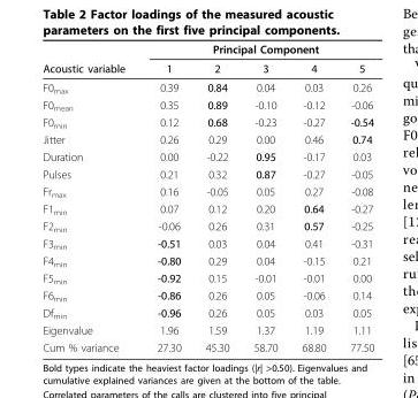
<table><thead><tr><td rowspan="2">Acoustic variable</td><td colspan="5">Principal Component</td></tr><tr><td>1</td><td>2</td><td>3</td><td>4</td><td>5</td></tr></thead><tbody><tr><td>F0<sub>max</sub></td><td>0.39</td><td>0.84</td><td>0.04</td><td>0.03</td><td>0.26</td></tr><tr><td>F0<sub>mean</sub></td><td>0.35</td><td>0.89</td><td>-0.10</td><td>-0.12</td><td>-0.06</td></tr><tr><td>F0<sub>min</sub></td><td>0.12</td><td>0.68</td><td>-0.23</td><td>-0.27</td><td>-0.54</td></tr><tr><td>Jitter</td><td>0.26</td><td>0.29</td><td>0.00</td><td>0.46</td><td>0.74</td></tr><tr><td>Duration</td><td>0.00</td><td>-0.22</td><td>0.95</td><td>-0.17</td><td>0.03</td></tr><tr><td>Pulses</td><td>0.21</td><td>0.32</td><td>0.87</td><td>-0.27</td><td>-0.05</td></tr><tr><td>Fr<sub>max</sub></td><td>0.16</td><td>-0.05</td><td>0.05</td><td>0.27</td><td>-0.08</td></tr><tr><td>F1<sub>min</sub></td><td>0.07</td><td>0.12</td><td>0.20</td><td>0.64</td><td>-0.27</td></tr><tr><td>F2<sub>min</sub></td><td>-0.06</td><td>0.26</td><td>0.31</td><td>0.57</td><td>-0.25</td></tr><tr><td>F3<sub>min</sub></td><td>-0.51</td><td>0.03</td><td>0.04</td><td>0.41</td><td>-0.31</td></tr><tr><td>F4<sub>min</sub></td><td>-0.80</td><td>0.29</td><td>0.04</td><td>-0.15</td><td>0.21</td></tr><tr><td>F5<sub>min</sub></td><td>-0.92</td><td>0.15</td><td>-0.01</td><td>-0.01</td><td>0.00</td></tr><tr><td>F6<sub>min</sub></td><td>-0.86</td><td>0.26</td><td>0.05</td><td>-0.06</td><td>0.14</td></tr><tr><td>Df<sub>min</sub></td><td>-0.96</td><td>0.26</td><td>0.05</td><td>0.03</td><td>0.05</td></tr><tr><td>Eigenvalue</td><td>1.96</td><td>1.59</td><td>1.37</td><td>1.19</td><td>1.11</td></tr><tr><td>Cum % variance</td><td>27.30</td><td>45.30</td><td>58.70</td><td>68.80</td><td>77.50</td></tr></tbody></table>